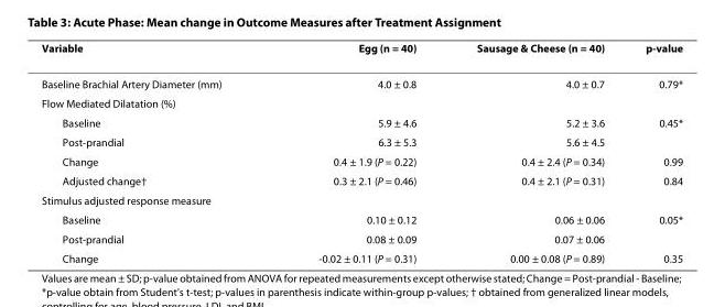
<table><thead><tr><td>Variable</td><td>Egg (n = 40)</td><td>Sausage &amp; Cheese (n = 40)</td><td>p-value</td></tr></thead><tbody><tr><td>Baseline Brachial Artery Diameter (mm)</td><td>4.0 ± 0.8</td><td>4.0 ± 0.7</td><td>0.79*</td></tr><tr><td colspan="4">Flow Mediated Dilatation (%)</td></tr><tr><td>Baseline</td><td>5.9 ± 4.6</td><td>5.2 ± 3.6</td><td>0.45*</td></tr><tr><td>Post-prandial</td><td>6.3 ± 5.3</td><td>5.6 ± 4.5</td><td></td></tr><tr><td>Change</td><td>0.4 ± 1.9 (P = 0.22)</td><td>0.4 ± 2.4 (P = 0.34)</td><td>0.99</td></tr><tr><td>Adjusted change†</td><td>0.3 ± 2.1 (P = 0.46)</td><td>0.4 ± 2.1 (P = 0.31)</td><td>0.84</td></tr><tr><td colspan="4">Stimulus adjusted response measure</td></tr><tr><td>Baseline</td><td>0.10 ± 0.12</td><td>0.06 ± 0.06</td><td>0.05*</td></tr><tr><td>Post-prandial</td><td>0.08 ± 0.09</td><td>0.07 ± 0.06</td><td></td></tr><tr><td>Change</td><td>-0.02 ± 0.11 (P = 0.31)</td><td>0.00 ± 0.08 (P = 0.89)</td><td>0.35</td></tr></tbody></table>